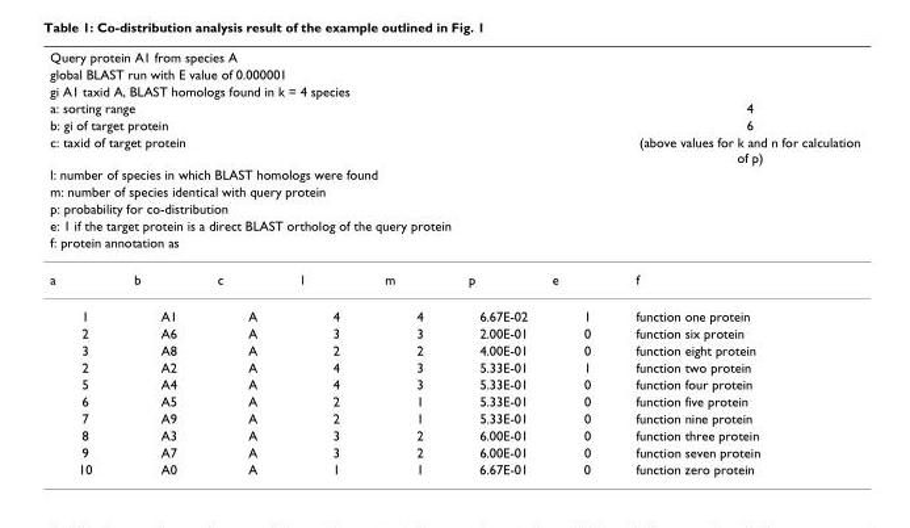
<table><thead><tr><td colspan="4">Query protein A1 from species A</td><td></td><td></td><td rowspan="6"></td><td rowspan="6">4 6 (above values for k and n for calculation of p)</td></tr><tr><td rowspan="2" colspan="6">global BLAST run with E value of 0.000001 gi A1 taxid A, BLAST homologs found in k = 4 species</td></tr><tr></tr><tr><td colspan="2">a: sorting range</td><td></td><td rowspan="3"></td><td rowspan="3"></td><td rowspan="3"></td></tr><tr><td rowspan="2" colspan="3">b: gi of target protein c: taxid of target protein</td></tr><tr></tr><tr><td colspan="8">l: number of species in which BLAST homologs were found</td></tr><tr><td colspan="6">m: number of species identical with query protein</td><td rowspan="2"></td><td rowspan="2"></td></tr><tr><td colspan="4">p: probability for co-distribution</td><td></td><td></td></tr><tr><td colspan="8">e: 1 if the target protein is a direct BLAST ortholog of the query protein</td></tr><tr><td colspan="3">f: protein annotation as</td><td rowspan="2">l</td><td rowspan="2">m</td><td rowspan="2">p</td><td rowspan="2">e</td><td rowspan="2">f</td></tr><tr><td>a</td><td>b</td><td>c</td></tr></thead><tbody><tr><td>1</td><td>A1</td><td>A</td><td>4</td><td>4</td><td>6.67E-02</td><td>1</td><td>function one protein</td></tr><tr><td>2</td><td>A6</td><td>A</td><td>3</td><td>3</td><td>2.00E-01</td><td>0</td><td>function six protein</td></tr><tr><td>3</td><td>A8</td><td>A</td><td>2</td><td>2</td><td>4.00E-01</td><td>0</td><td>function eight protein</td></tr><tr><td>2</td><td>A2</td><td>A</td><td>4</td><td>3</td><td>5.33E-01</td><td>1</td><td>function two protein</td></tr><tr><td>5</td><td>A4</td><td>A</td><td>4</td><td>3</td><td>5.33E-01</td><td>0</td><td>function four protein</td></tr><tr><td>6</td><td>A5</td><td>A</td><td>2</td><td>1</td><td>5.33E-01</td><td>0</td><td>function five protein</td></tr><tr><td>7</td><td>A9</td><td>A</td><td>2</td><td>1</td><td>5.33E-01</td><td>0</td><td>function nine protein</td></tr><tr><td>8</td><td>A3</td><td>A</td><td>3</td><td>2</td><td>6.00E-01</td><td>0</td><td>function three protein</td></tr><tr><td>9</td><td>A7</td><td>A</td><td>3</td><td>2</td><td>6.00E-01</td><td>0</td><td>function seven protein</td></tr><tr><td>10</td><td>A0</td><td>A</td><td>1</td><td>1</td><td>6.67E-01</td><td>0</td><td>function zero protein</td></tr></tbody></table>